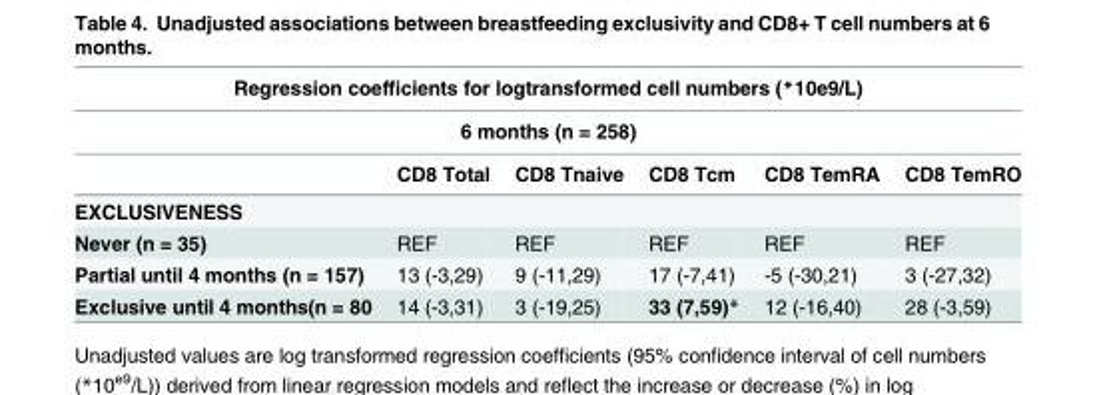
<table><thead><tr><td rowspan="2" colspan="6">Regression coefficients for logtransformed cell numbers (*10e9/L) 6 months (n = 258)</td></tr><tr></tr><tr><td></td><td>CD8 Total</td><td>CD8 Tnaive</td><td>CD8 Tcm</td><td>CD8 TemRA</td><td>CD8 TemRO</td></tr></thead><tbody><tr><td colspan="6">EXCLUSIVENESS</td></tr><tr><td>Never (n = 35)</td><td>REF</td><td>REF</td><td>REF</td><td>REF</td><td>REF</td></tr><tr><td>Partial until 4 months (n = 157)</td><td>13 (-3,29)</td><td>9 (-11,29)</td><td>17 (-7,41)</td><td>-5 (-30,21)</td><td>3 (-27,32)</td></tr><tr><td>Exclusive until 4 months(n = 80</td><td>14 (-3,31)</td><td>3 (-19,25)</td><td>33 (7,59)*</td><td>12 (-16,40)</td><td>28 (-3,59)</td></tr></tbody></table>